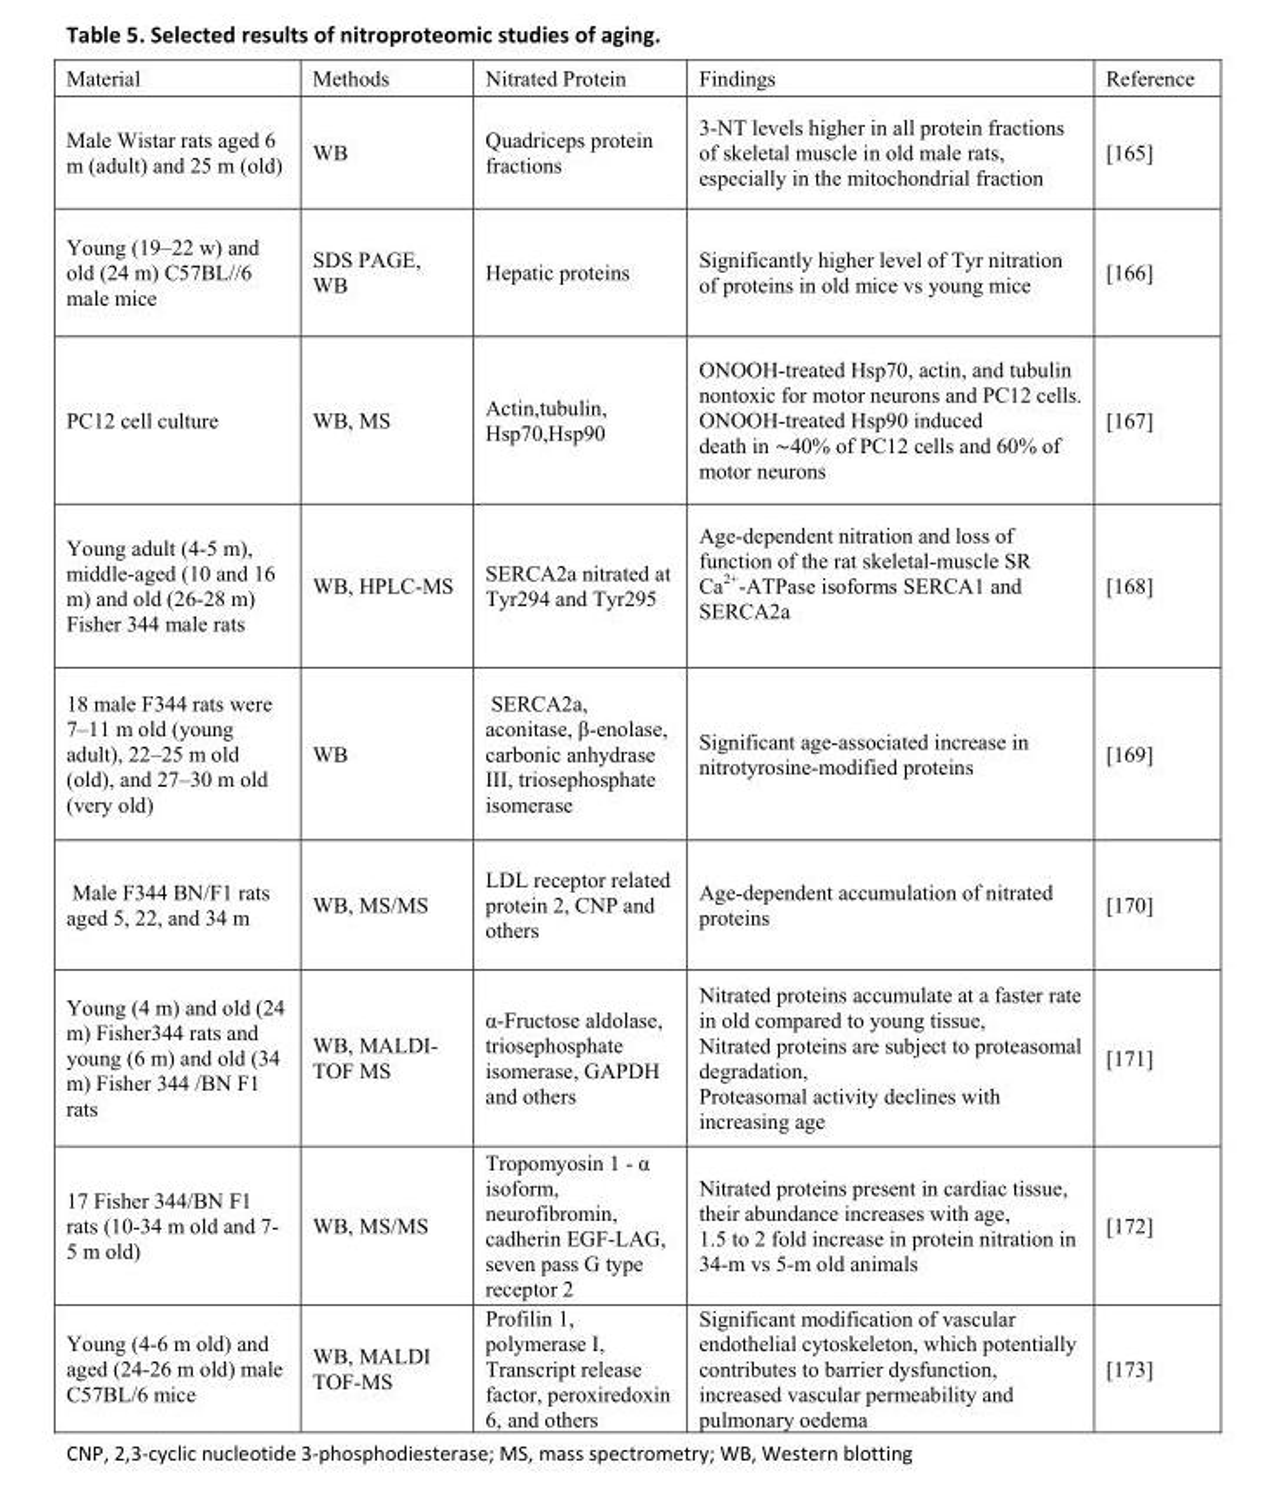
<table><tbody><tr><td>Material</td><td>Methods</td><td>Nitrated Protein</td><td>Findings</td><td>Reference</td></tr><tr><td>Male Wistar rats aged 6 m (adult) and 25 m (old)</td><td>WB</td><td>Quadriceps protein fractions</td><td>3-NT levels higher in all protein fractions of skeletal muscle in old male rats, especially in the mitochondrial fraction</td><td>[165]</td></tr><tr><td>Young (19–22 w) and old (24 m) C57BL//6 male mice</td><td>SDS PAGE, WB</td><td>Hepatic proteins</td><td>Significantly higher level of Tyr nitration of proteins in old mice vs young mice</td><td>[166]</td></tr><tr><td>PC12 cell culture</td><td>WB, MS</td><td>Actin,tubulin, Hsp70,Hsp90</td><td>ONOOH-treated Hsp70, actin, and tubulin nontoxic for motor neurons and PC12 cells. ONOOH-treated Hsp90 induced death in ∼40% of PC12 cells and 60% of motor neurons</td><td>[167]</td></tr><tr><td>Young adult (4-5 m), middle-aged (10 and 16 m) and old (26-28 m) Fisher 344 male rats</td><td>WB, HPLC-MS</td><td>SERCA2a nitrated at Tyr294 and Tyr295</td><td>Age-dependent nitration and loss of function of the rat skeletal-muscle SR Ca<sup>2+</sup>-ATPase isoforms SERCA1 and SERCA2a</td><td>[168]</td></tr><tr><td>18 male F344 rats were 7–11 m old (young adult), 22–25 m old (old), and 27–30 m old (very old)</td><td>WB</td><td>SERCA2a, aconitase, β-enolase, carbonic anhydrase III, triosephosphate isomerase</td><td>Significant age-associated increase in nitrotyrosine-modified proteins</td><td>[169]</td></tr><tr><td>Male F344 BN/F1 rats aged 5, 22, and 34 m</td><td>WB, MS/MS</td><td>LDL receptor related protein 2, CNP and others</td><td>Age-dependent accumulation of nitrated proteins</td><td>[170]</td></tr><tr><td>Young (4 m) and old (24 m) Fisher344 rats and young (6 m) and old (34 m) Fisher 344 /BN F1 rats</td><td>WB, MALDI- TOF MS</td><td>α-Fructose aldolase, triosephosphate isomerase, GAPDH and others</td><td>Nitrated proteins accumulate at a faster rate in old compared to young tissue, Nitrated proteins are subject to proteasomal degradation, Proteasomal activity declines with increasing age</td><td>[171]</td></tr><tr><td>17 Fisher 344/BN F1 rats (10-34 m old and 7- 5 m old)</td><td>WB, MS/MS</td><td>Tropomyosin 1 - α isoform, neurofibromin, cadherin EGF-LAG, seven pass G type receptor 2</td><td>Nitrated proteins present in cardiac tissue, their abundance increases with age, 1.5 to 2 fold increase in protein nitration in 34-m vs 5-m old animals</td><td>[172]</td></tr><tr><td>Young (4-6 m old) and aged (24-26 m old) male C57BL/6 mice</td><td>WB, MALDI TOF-MS</td><td>Profilin 1, polymerase I, Transcript release factor, peroxiredoxin 6, and others</td><td>Significant modification of vascular endothelial cytoskeleton, which potentially contributes to barrier dysfunction, increased vascular permeability and pulmonary oedema</td><td>[173]</td></tr></tbody></table>